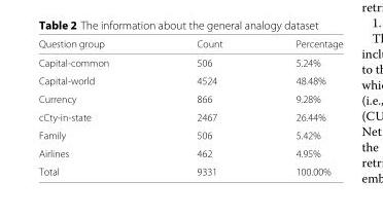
<table><thead><tr><td>Question group</td><td>Count</td><td>Percentage</td></tr></thead><tbody><tr><td>Capital-common</td><td>506</td><td>5.24%</td></tr><tr><td>Capital-world</td><td>4524</td><td>48.48%</td></tr><tr><td>Currency</td><td>866</td><td>9.28%</td></tr><tr><td>cCty-in-state</td><td>2467</td><td>26.44%</td></tr><tr><td>Family</td><td>506</td><td>5.42%</td></tr><tr><td>Airlines</td><td>462</td><td>4.95%</td></tr><tr><td>Total</td><td>9331</td><td>100.00%</td></tr></tbody></table>